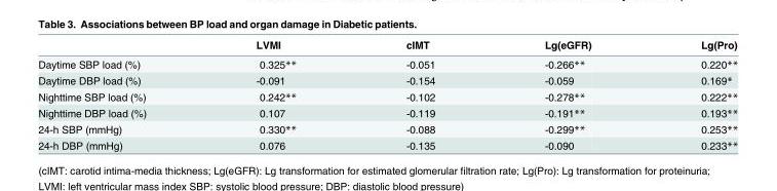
<table><thead><tr><td></td><td>LVMI</td><td>cIMT</td><td>Lg(eGFR)</td><td>Lg(Pro)</td></tr></thead><tbody><tr><td>Daytime SBP load (%)</td><td>0.325**</td><td>-0.051</td><td>-0.266**</td><td>0.220**</td></tr><tr><td>Daytime DBP load (%)</td><td>-0.091</td><td>-0.154</td><td>-0.059</td><td>0.169*</td></tr><tr><td>Nighttime SBP load (%)</td><td>0.242**</td><td>-0.102</td><td>-0.278**</td><td>0.222**</td></tr><tr><td>Nighttime DBP load (%)</td><td>0.107</td><td>-0.119</td><td>-0.191**</td><td>0.193**</td></tr><tr><td>24-h SBP (mmHg)</td><td>0.330**</td><td>-0.088</td><td>-0.299**</td><td>0.253**</td></tr><tr><td>24-h DBP (mmHg)</td><td>0.076</td><td>-0.135</td><td>-0.090</td><td>0.233**</td></tr></tbody></table>